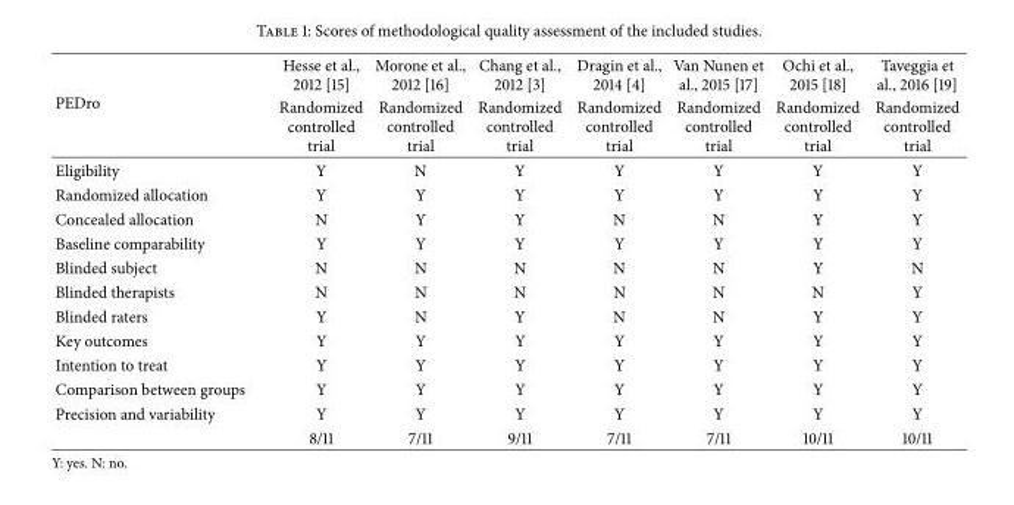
<table><thead><tr><td rowspan="2">PEDro</td><td rowspan="2">Hesse et al., 2012 [15] Randomized controlled trial</td><td rowspan="2">Morone et al., 2012 [16] Randomized controlled trial</td><td rowspan="2">Chang et al., 2012 [3] Randomized controlled trial</td><td rowspan="2">Dragin et al., 2014 [4] Randomized controlled trial</td><td rowspan="2">Van Nunen et al., 2015 [17] Randomized controlled trial</td><td rowspan="2">Ochi et al., 2015 [18] Randomized controlled trial</td><td rowspan="2">Taveggia et al., 2016 [19] Randomized controlled trial</td></tr><tr></tr></thead><tbody><tr><td>Eligibility</td><td>Y</td><td>N</td><td>Y</td><td>Y</td><td>Y</td><td>Y</td><td>Y</td></tr><tr><td>Randomized allocation</td><td>Y</td><td>Y</td><td>Y</td><td>Y</td><td>Y</td><td>Y</td><td>Y</td></tr><tr><td>Concealed allocation</td><td>N</td><td>Y</td><td>Y</td><td>N</td><td>N</td><td>Y</td><td>Y</td></tr><tr><td>Baseline comparability</td><td>Y</td><td>Y</td><td>Y</td><td>Y</td><td>Y</td><td>Y</td><td>Y</td></tr><tr><td>Blinded subject</td><td>N</td><td>N</td><td>N</td><td>N</td><td>N</td><td>Y</td><td>N</td></tr><tr><td>Blinded therapists</td><td>N</td><td>N</td><td>N</td><td>N</td><td>N</td><td>N</td><td>Y</td></tr><tr><td>Blinded raters</td><td>Y</td><td>N</td><td>Y</td><td>N</td><td>N</td><td>Y</td><td>Y</td></tr><tr><td>Key outcomes</td><td>Y</td><td>Y</td><td>Y</td><td>Y</td><td>Y</td><td>Y</td><td>Y</td></tr><tr><td>Intention to treat</td><td>Y</td><td>Y</td><td>Y</td><td>Y</td><td>Y</td><td>Y</td><td>Y</td></tr><tr><td>Comparison between groups</td><td>Y</td><td>Y</td><td>Y</td><td>Y</td><td>Y</td><td>Y</td><td>Y</td></tr><tr><td rowspan="2">Precision and variability</td><td>Y</td><td>Y</td><td>Y</td><td>Y</td><td>Y</td><td>Y</td><td>Y</td></tr><tr><td>8/11</td><td>7/11</td><td>9/11</td><td>7/11</td><td>7/11</td><td>10/11</td><td>10/11</td></tr></tbody></table>